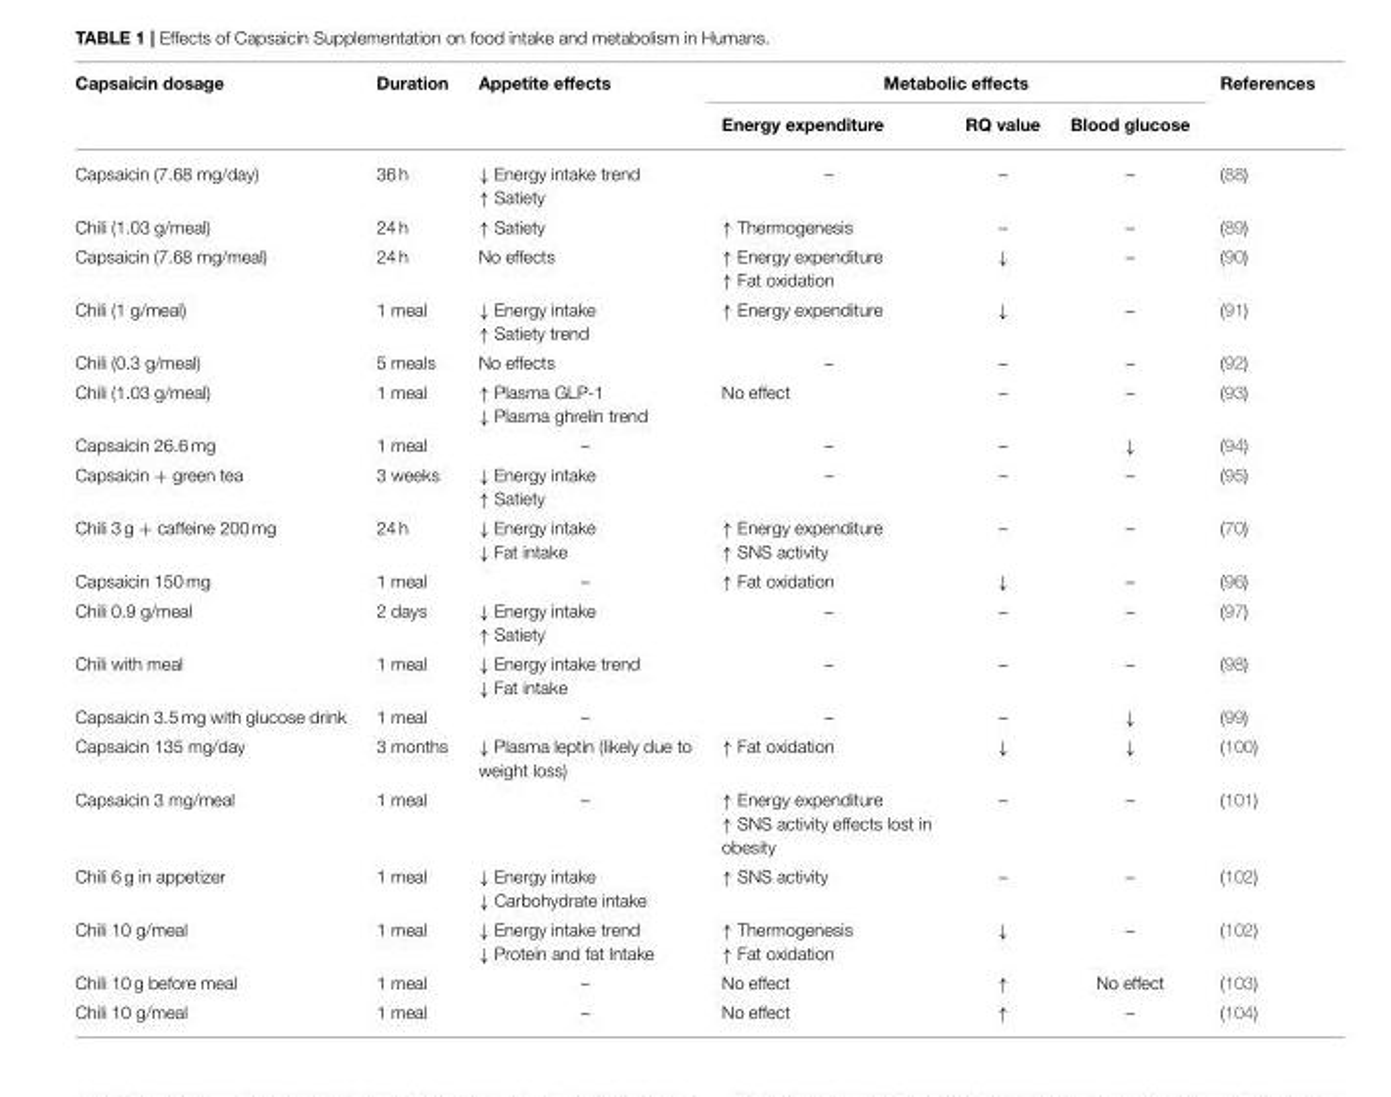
<table><thead><tr><td rowspan="2">Capsaicin dosage</td><td rowspan="2">Duration</td><td rowspan="2">Appetite effects</td><td colspan="3">Metabolic effects</td><td rowspan="2">References</td></tr><tr><td>Energy expenditure</td><td>RQ value</td><td>Blood glucose</td></tr></thead><tbody><tr><td>Capsaicin (7.68 mg/day)</td><td>36 h</td><td>↓ Energy intake trend ↑ Satiety</td><td>–</td><td>–</td><td>–</td><td>(88)</td></tr><tr><td>Chili (1.03 g/meal)</td><td>24 h</td><td>↑ Satiety</td><td>↑ Thermogenesis</td><td>–</td><td>–</td><td>(89)</td></tr><tr><td>Capsaicin (7.68 mg/meal)</td><td>24 h</td><td>No effects</td><td>↑ Energy expenditure ↑ Fat oxidation</td><td>↓</td><td>–</td><td>(90)</td></tr><tr><td>Chili (1 g/meal)</td><td>1 meal</td><td>↓ Energy intake ↑ Satiety trend</td><td>↑ Energy expenditure</td><td>↓</td><td>–</td><td>(91)</td></tr><tr><td>Chili (0.3 g/meal)</td><td>5 meals</td><td>No effects</td><td>–</td><td>–</td><td>–</td><td>(92)</td></tr><tr><td>Chili (1.03 g/meal)</td><td>1 meal</td><td>↑ Plasma GLP-1 ↓ Plasma ghrelin trend</td><td>No effect</td><td>–</td><td>–</td><td>(93)</td></tr><tr><td>Capsaicin 26.6 mg</td><td>1 meal</td><td>–</td><td>–</td><td>–</td><td>↓</td><td>(94)</td></tr><tr><td>Capsaicin + green tea</td><td>3 weeks</td><td>↓ Energy intake ↑ Satiety</td><td>–</td><td>–</td><td>–</td><td>(95)</td></tr><tr><td>Chili 3 g + caffeine 200 mg</td><td>24 h</td><td>↓ Energy intake ↓ Fat intake</td><td>↑ Energy expenditure ↑ SNS activity</td><td>–</td><td>–</td><td>(70)</td></tr><tr><td>Capsaicin 150 mg</td><td>1 meal</td><td>–</td><td>↑ Fat oxidation</td><td>↓</td><td>–</td><td>(96)</td></tr><tr><td>Chili 0.9 g/meal</td><td>2 days</td><td>↓ Energy intake ↑ Satiety</td><td>–</td><td>–</td><td>–</td><td>(97)</td></tr><tr><td>Chili with meal</td><td>1 meal</td><td>↓ Energy intake trend ↓ Fat intake</td><td>–</td><td>–</td><td>–</td><td>(98)</td></tr><tr><td>Capsaicin 3.5 mg with glucose drink</td><td>1 meal</td><td>–</td><td>–</td><td>–</td><td>↓</td><td>(99)</td></tr><tr><td>Capsaicin 135 mg/day</td><td>3 months</td><td>↓ Plasma leptin (likely due to weight loss)</td><td>↑ Fat oxidation</td><td>↓</td><td>↓</td><td>(100)</td></tr><tr><td>Capsaicin 3 mg/meal</td><td>1 meal</td><td>–</td><td>↑ Energy expenditure ↑ SNS activity effects lost in obesity</td><td>–</td><td>–</td><td>(101)</td></tr><tr><td>Chili 6 g in appetizer</td><td>1 meal</td><td>↓ Energy intake ↓ Carbohydrate intake</td><td>↑ SNS activity</td><td>–</td><td>–</td><td>(102)</td></tr><tr><td>Chili 10 g/meal</td><td>1 meal</td><td>↓ Energy intake trend ↓ Protein and fat Intake</td><td>↑ Thermogenesis ↑ Fat oxidation</td><td>↓</td><td>–</td><td>(102)</td></tr><tr><td>Chili 10 g before meal</td><td>1 meal</td><td>–</td><td>No effect</td><td>↑</td><td>No effect</td><td>(103)</td></tr><tr><td>Chili 10 g/meal</td><td>1 meal</td><td>–</td><td>No effect</td><td>↑</td><td>–</td><td>(104)</td></tr></tbody></table>